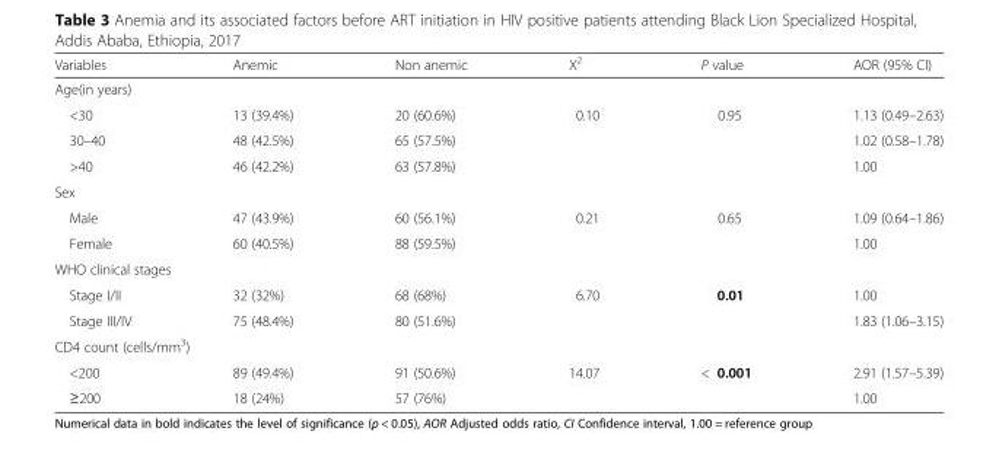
<table><thead><tr><td>Variables</td><td>Anemic</td><td>Non anemic</td><td>X<sup>2</sup></td><td>P value</td><td>AOR (95% CI)</td></tr></thead><tbody><tr><td colspan="6">Age(in years)</td></tr><tr><td>&lt;30</td><td>13 (39.4%)</td><td>20 (60.6%)</td><td>0.10</td><td>0.95</td><td>1.13 (0.49–2.63)</td></tr><tr><td>30–40</td><td>48 (42.5%)</td><td>65 (57.5%)</td><td></td><td></td><td>1.02 (0.58–1.78)</td></tr><tr><td>&gt;40</td><td>46 (42.2%)</td><td>63 (57.8%)</td><td></td><td></td><td>1.00</td></tr><tr><td colspan="6">Sex</td></tr><tr><td>Male</td><td>47 (43.9%)</td><td>60 (56.1%)</td><td>0.21</td><td>0.65</td><td>1.09 (0.64–1.86)</td></tr><tr><td>Female</td><td>60 (40.5%)</td><td>88 (59.5%)</td><td></td><td></td><td>1.00</td></tr><tr><td colspan="6">WHO clinical stages</td></tr><tr><td>Stage I/II</td><td>32 (32%)</td><td>68 (68%)</td><td>6.70</td><td>0.01</td><td>1.00</td></tr><tr><td>Stage III/IV</td><td>75 (48.4%)</td><td>80 (51.6%)</td><td></td><td></td><td>1.83 (1.06–3.15)</td></tr><tr><td colspan="6">CD4 count (cells/mm<sup>3</sup>)</td></tr><tr><td>&lt;200</td><td>89 (49.4%)</td><td>91 (50.6%)</td><td>14.07</td><td>&lt; 0.001</td><td>2.91 (1.57–5.39)</td></tr><tr><td>≥200</td><td>18 (24%)</td><td>57 (76%)</td><td></td><td></td><td>1.00</td></tr></tbody></table>